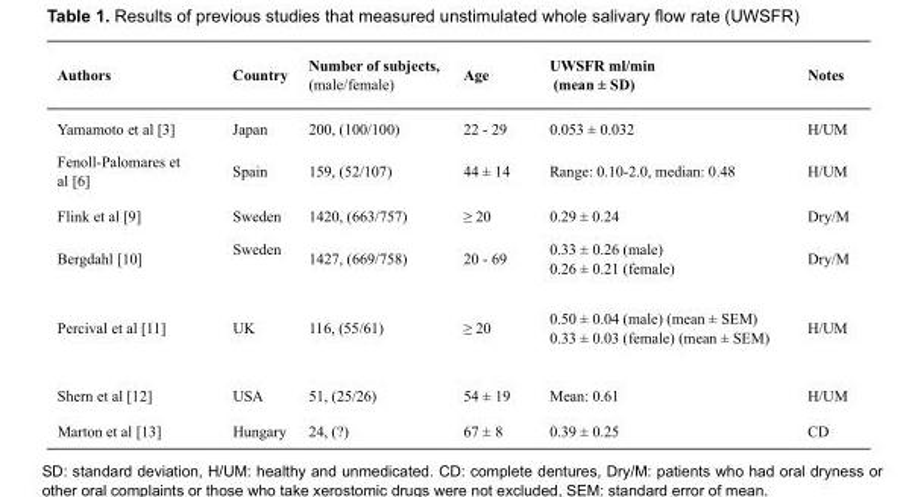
<table><thead><tr><td rowspan="2">Authors</td><td rowspan="2">Country</td><td rowspan="2">Number of subjects, (male/female)</td><td rowspan="2">Age</td><td rowspan="2">UWSFR ml/min (mean ± SD)</td><td rowspan="2">Notes</td></tr><tr></tr></thead><tbody><tr><td>Yamamoto et al [3]</td><td>Japan</td><td>200, (100/100)</td><td>22 - 29</td><td>0.053 ± 0.032</td><td>H/UM</td></tr><tr><td>Fenoll-Palomares et al [6]</td><td>Spain</td><td>159, (52/107)</td><td>44 ± 14</td><td>Range: 0.10-2.0, median: 0.48</td><td>H/UM</td></tr><tr><td>Flink et al [9]</td><td>Sweden</td><td>1420, (663/757)</td><td>≥ 20</td><td>0.29 ± 0.24</td><td>Dry/M</td></tr><tr><td rowspan="2">Bergdahl [10]</td><td rowspan="2">Sweden</td><td rowspan="2">1427, (669/758)</td><td rowspan="2">20 - 69</td><td>0.33 ± 0.26 (male)</td><td rowspan="2">Dry/M</td></tr><tr><td>0.26 ± 0.21 (female)</td></tr><tr><td rowspan="2">Percival et al [11]</td><td rowspan="2">UK</td><td rowspan="2">116, (55/61)</td><td rowspan="2">≥ 20</td><td>0.50 ± 0.04 (male) (mean ± SEM)</td><td rowspan="2">H/UM</td></tr><tr><td>0.33 ± 0.03 (female) (mean ± SEM)</td></tr><tr><td>Shern et al [12]</td><td>USA</td><td>51, (25/26)</td><td>54 ± 19</td><td>Mean: 0.61</td><td>H/UM</td></tr><tr><td>Marton et al [13]</td><td>Hungary</td><td>24, (?)</td><td>67 ± 8</td><td>0.39 ± 0.25</td><td>CD</td></tr></tbody></table>